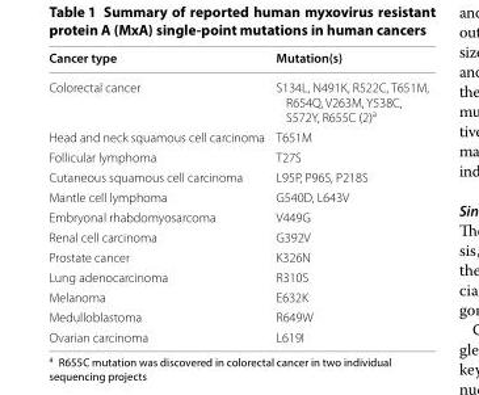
<table><thead><tr><td>Cancer type</td><td>Mutation(s)</td></tr></thead><tbody><tr><td>Colorectal cancer</td><td>S134L, N491K, R522C, T651M, R654Q, V263M, Y538C, S572Y, R655C (2)<sup>a</sup></td></tr><tr><td>Head and neck squamous cell carcinoma</td><td>T651M</td></tr><tr><td>Follicular lymphoma</td><td>T27S</td></tr><tr><td>Cutaneous squamous cell carcinoma</td><td>L95P, P96S, P218S</td></tr><tr><td>Mantle cell lymphoma</td><td>G540D, L643V</td></tr><tr><td>Embryonal rhabdomyosarcoma</td><td>V449G</td></tr><tr><td>Renal cell carcinoma</td><td>G392V</td></tr><tr><td>Prostate cancer</td><td>K326N</td></tr><tr><td>Lung adenocarcinoma</td><td>R310S</td></tr><tr><td>Melanoma</td><td>E632K</td></tr><tr><td>Medulloblastoma</td><td>R649W</td></tr><tr><td>Ovarian carcinoma</td><td>L619I</td></tr></tbody></table>